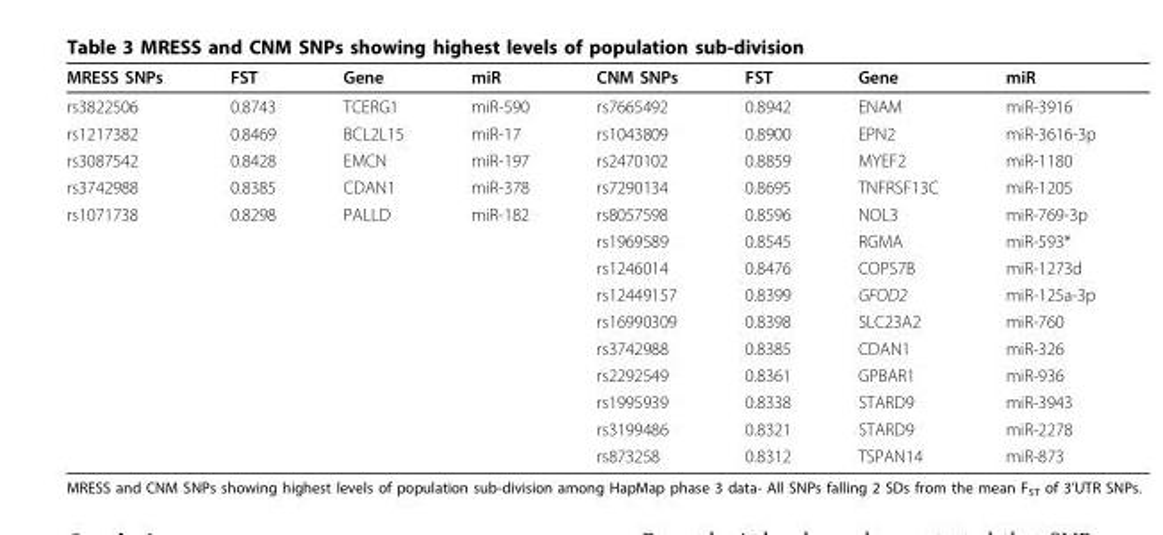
<table><thead><tr><td>MRESS SNPs</td><td>FST</td><td>Gene</td><td>miR</td><td>CNM SNPs</td><td>FST</td><td>Gene</td><td>miR</td></tr></thead><tbody><tr><td>rs3822506</td><td>0.8743</td><td>TCERG1</td><td>miR-590</td><td>rs7665492</td><td>0.8942</td><td>ENAM</td><td>miR-3916</td></tr><tr><td>rs1217382</td><td>0.8469</td><td>BCL2L15</td><td>miR-17</td><td>rs1043809</td><td>0.8900</td><td>EPN2</td><td>miR-3616-3p</td></tr><tr><td>rs3087542</td><td>0.8428</td><td>EMCN</td><td>miR-197</td><td>rs2470102</td><td>0.8859</td><td>MYEF2</td><td>miR-1180</td></tr><tr><td>rs3742988</td><td>0.8385</td><td>CDAN1</td><td>miR-378</td><td>rs7290134</td><td>0.8695</td><td>TNFRSF13C</td><td>miR-1205</td></tr><tr><td rowspan="10">rs1071738</td><td>0.8298</td><td>PALLD</td><td>miR-182</td><td>rs8057598</td><td>0.8596</td><td>NOL3</td><td>miR-769-3p</td></tr><tr><td></td><td></td><td></td><td>rs1969589</td><td>0.8545</td><td>RGMA</td><td>miR-593*</td></tr><tr><td></td><td></td><td></td><td>rs1246014</td><td>0.8476</td><td>COPS7B</td><td>miR-1273d</td></tr><tr><td></td><td></td><td></td><td>rs12449157</td><td>0.8399</td><td>GFOD2</td><td>miR-125a-3p</td></tr><tr><td></td><td></td><td></td><td>rs16990309</td><td>0.8398</td><td>SLC23A2</td><td>miR-760</td></tr><tr><td></td><td></td><td></td><td>rs3742988</td><td>0.8385</td><td>CDAN1</td><td>miR-326</td></tr><tr><td></td><td></td><td></td><td>rs2292549</td><td>0.8361</td><td>GPBAR1</td><td>miR-936</td></tr><tr><td></td><td></td><td></td><td>rs1995939</td><td>0.8338</td><td>STARD9</td><td>miR-3943</td></tr><tr><td></td><td></td><td></td><td>rs3199486</td><td>0.8321</td><td>STARD9</td><td>miR-2278</td></tr><tr><td></td><td></td><td></td><td>rs873258</td><td>0.8312</td><td>TSPAN14</td><td>miR-873</td></tr></tbody></table>